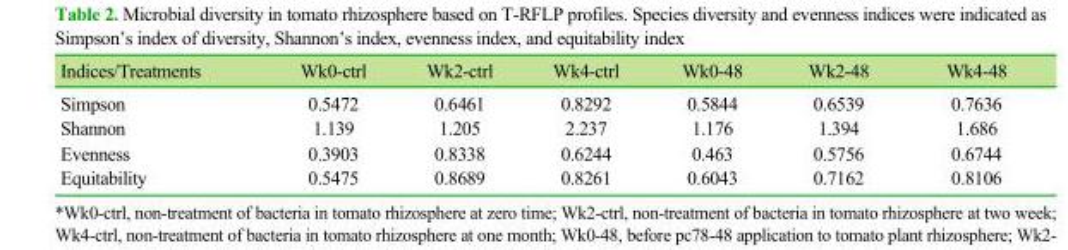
<table><thead><tr><td>Indices/Treatments</td><td>Wk0-ctrl</td><td>Wk2-ctrl</td><td>Wk4-ctrl</td><td>Wk0-48</td><td>Wk2-48</td><td>Wk4-48</td></tr></thead><tbody><tr><td>Simpson</td><td>0.5472</td><td>0.6461</td><td>0.8292</td><td>0.5844</td><td>0.6539</td><td>0.7636</td></tr><tr><td>Shannon</td><td>1.139</td><td>1.205</td><td>2.237</td><td>1.176</td><td>1.394</td><td>1.686</td></tr><tr><td>Evenness</td><td>0.3903</td><td>0.8338</td><td>0.6244</td><td>0.463</td><td>0.5756</td><td>0.6744</td></tr><tr><td>Equitability</td><td>0.5475</td><td>0.8689</td><td>0.8261</td><td>0.6043</td><td>0.7162</td><td>0.8106</td></tr></tbody></table>